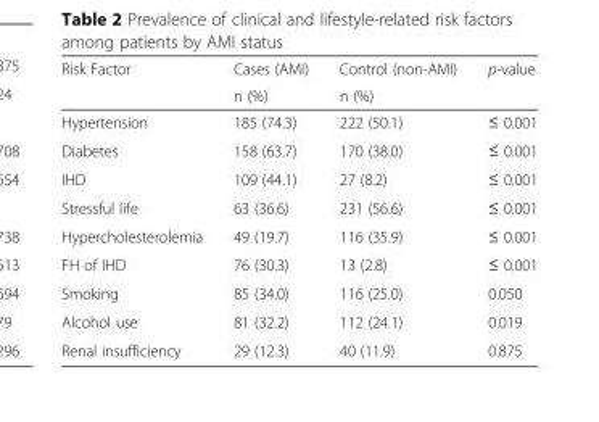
<table><thead><tr><td rowspan="2">Risk Factor</td><td rowspan="2">Cases (AMI) n (%)</td><td rowspan="2">Control (non-AMI) n (%)</td><td rowspan="2">p-value</td></tr><tr></tr></thead><tbody><tr><td>Hypertension</td><td>185 (74.3)</td><td>222 (50.1)</td><td>≤ 0.001</td></tr><tr><td>Diabetes</td><td>158 (63.7)</td><td>170 (38.0)</td><td>≤ 0.001</td></tr><tr><td>IHD</td><td>109 (44.1)</td><td>27 (8.2)</td><td>≤ 0.001</td></tr><tr><td>Stressful life</td><td>63 (36.6)</td><td>231 (56.6)</td><td>≤ 0.001</td></tr><tr><td>Hypercholesterolemia</td><td>49 (19.7)</td><td>116 (35.9)</td><td>≤ 0.001</td></tr><tr><td>FH of IHD</td><td>76 (30.3)</td><td>13 (2.8)</td><td>≤ 0.001</td></tr><tr><td>Smoking</td><td>85 (34.0)</td><td>116 (25.0)</td><td>0.050</td></tr><tr><td>Alcohol use</td><td>81 (32.2)</td><td>112 (24.1)</td><td>0.019</td></tr><tr><td>Renal insufficiency</td><td>29 (12.3)</td><td>40 (11.9)</td><td>0.875</td></tr></tbody></table>